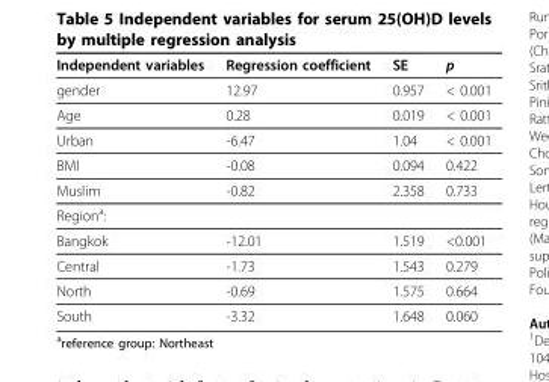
<table><thead><tr><td>Independent variables</td><td>Regression coefficient</td><td>SE</td><td>p</td></tr></thead><tbody><tr><td>gender</td><td>12.97</td><td>0.957</td><td>&lt; 0.001</td></tr><tr><td>Age</td><td>0.28</td><td>0.019</td><td>&lt; 0.001</td></tr><tr><td>Urban</td><td>-6.47</td><td>1.04</td><td>&lt; 0.001</td></tr><tr><td>BMI</td><td>-0.08</td><td>0.094</td><td>0.422</td></tr><tr><td>Muslim</td><td>-0.82</td><td>2.358</td><td>0.733</td></tr><tr><td colspan="4">Region<sup>a</sup>:</td></tr><tr><td>Bangkok</td><td>-12.01</td><td>1.519</td><td>&lt;0.001</td></tr><tr><td>Central</td><td>-1.73</td><td>1.543</td><td>0.279</td></tr><tr><td>North</td><td>-0.69</td><td>1.575</td><td>0.664</td></tr><tr><td>South</td><td>-3.32</td><td>1.648</td><td>0.060</td></tr></tbody></table>